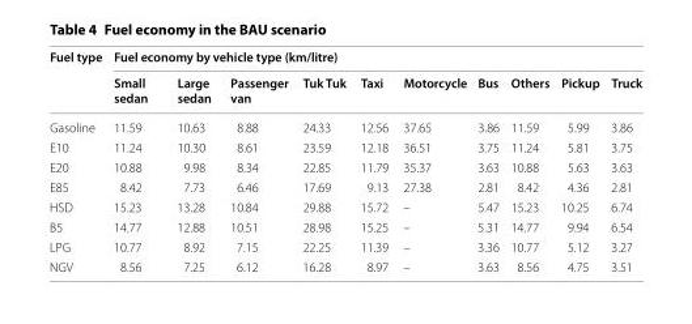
<table><thead><tr><td rowspan="2">Fuel type</td><td colspan="10">Fuel economy by vehicle type (km/litre)</td></tr><tr><td>Small sedan</td><td>Large sedan</td><td>Passenger van</td><td>Tuk Tuk</td><td>Taxi</td><td>Motorcycle</td><td>Bus</td><td>Others</td><td>Pickup</td><td>Truck</td></tr></thead><tbody><tr><td>Gasoline</td><td>11.59</td><td>10.63</td><td>8.88</td><td>24.33</td><td>12.56</td><td>37.65</td><td>3.86</td><td>11.59</td><td>5.99</td><td>3.86</td></tr><tr><td>E10</td><td>11.24</td><td>10.30</td><td>8.61</td><td>23.59</td><td>12.18</td><td>36.51</td><td>3.75</td><td>11.24</td><td>5.81</td><td>3.75</td></tr><tr><td>E20</td><td>10.88</td><td>9.98</td><td>8.34</td><td>22.85</td><td>11.79</td><td>35.37</td><td>3.63</td><td>10.88</td><td>5.63</td><td>3.63</td></tr><tr><td>E85</td><td>8.42</td><td>7.73</td><td>6.46</td><td>17.69</td><td>9.13</td><td>27.38</td><td>2.81</td><td>8.42</td><td>4.36</td><td>2.81</td></tr><tr><td>HSD</td><td>15.23</td><td>13.28</td><td>10.84</td><td>29.88</td><td>15.72</td><td>–</td><td>5.47</td><td>15.23</td><td>10.25</td><td>6.74</td></tr><tr><td>B5</td><td>14.77</td><td>12.88</td><td>10.51</td><td>28.98</td><td>15.25</td><td>–</td><td>5.31</td><td>14.77</td><td>9.94</td><td>6.54</td></tr><tr><td>LPG</td><td>10.77</td><td>8.92</td><td>7.15</td><td>22.25</td><td>11.39</td><td>–</td><td>3.36</td><td>10.77</td><td>5.12</td><td>3.27</td></tr><tr><td>NGV</td><td>8.56</td><td>7.25</td><td>6.12</td><td>16.28</td><td>8.97</td><td>–</td><td>3.63</td><td>8.56</td><td>4.75</td><td>3.51</td></tr></tbody></table>